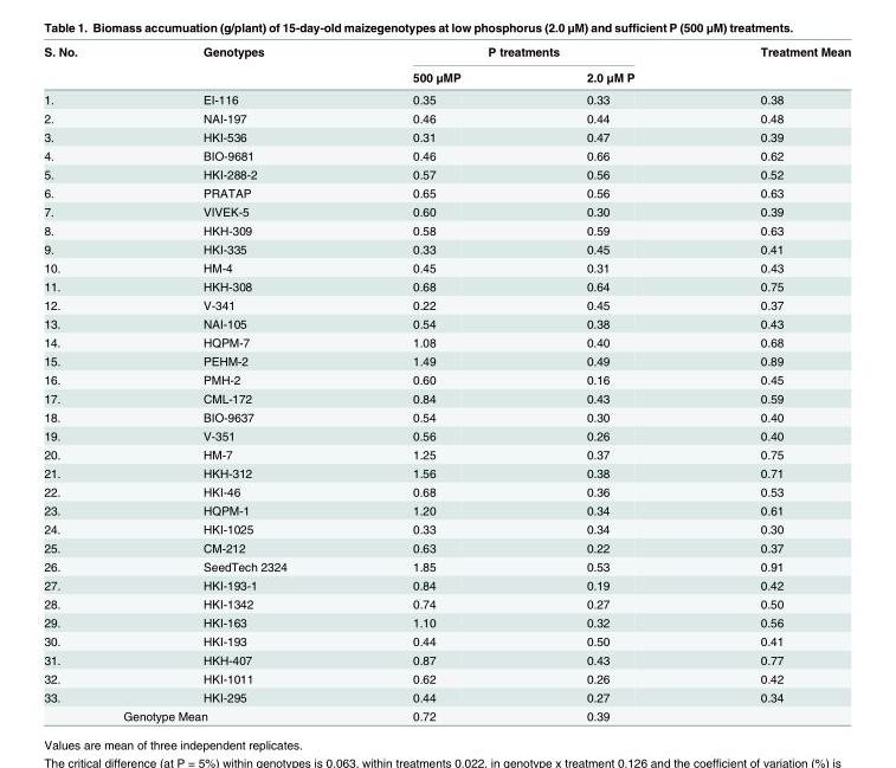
<table><thead><tr><td rowspan="2">S. No.</td><td rowspan="2">Genotypes</td><td colspan="2">P treatments</td><td rowspan="2">Treatment Mean</td></tr><tr><td>500 μMP</td><td>2.0 μM P</td></tr></thead><tbody><tr><td>1.</td><td>EI-116</td><td>0.35</td><td>0.33</td><td>0.38</td></tr><tr><td>2.</td><td>NAI-197</td><td>0.46</td><td>0.44</td><td>0.48</td></tr><tr><td>3.</td><td>HKI-536</td><td>0.31</td><td>0.47</td><td>0.39</td></tr><tr><td>4.</td><td>BIO-9681</td><td>0.46</td><td>0.66</td><td>0.62</td></tr><tr><td>5.</td><td>HKI-288-2</td><td>0.57</td><td>0.56</td><td>0.52</td></tr><tr><td>6.</td><td>PRATAP</td><td>0.65</td><td>0.56</td><td>0.63</td></tr><tr><td>7.</td><td>VIVEK-5</td><td>0.60</td><td>0.30</td><td>0.39</td></tr><tr><td>8.</td><td>HKH-309</td><td>0.58</td><td>0.59</td><td>0.63</td></tr><tr><td>9.</td><td>HKI-335</td><td>0.33</td><td>0.45</td><td>0.41</td></tr><tr><td>10.</td><td>HM-4</td><td>0.45</td><td>0.31</td><td>0.43</td></tr><tr><td>11.</td><td>HKH-308</td><td>0.68</td><td>0.64</td><td>0.75</td></tr><tr><td>12.</td><td>V-341</td><td>0.22</td><td>0.45</td><td>0.37</td></tr><tr><td>13.</td><td>NAI-105</td><td>0.54</td><td>0.38</td><td>0.43</td></tr><tr><td>14.</td><td>HQPM-7</td><td>1.08</td><td>0.40</td><td>0.68</td></tr><tr><td>15.</td><td>PEHM-2</td><td>1.49</td><td>0.49</td><td>0.89</td></tr><tr><td>16.</td><td>PMH-2</td><td>0.60</td><td>0.16</td><td>0.45</td></tr><tr><td>17.</td><td>CML-172</td><td>0.84</td><td>0.43</td><td>0.59</td></tr><tr><td>18.</td><td>BIO-9637</td><td>0.54</td><td>0.30</td><td>0.40</td></tr><tr><td>19.</td><td>V-351</td><td>0.56</td><td>0.26</td><td>0.40</td></tr><tr><td>20.</td><td>HM-7</td><td>1.25</td><td>0.37</td><td>0.75</td></tr><tr><td>21.</td><td>HKH-312</td><td>1.56</td><td>0.38</td><td>0.71</td></tr><tr><td>22.</td><td>HKI-46</td><td>0.68</td><td>0.36</td><td>0.53</td></tr><tr><td>23.</td><td>HQPM-1</td><td>1.20</td><td>0.34</td><td>0.61</td></tr><tr><td>24.</td><td>HKI-1025</td><td>0.33</td><td>0.34</td><td>0.30</td></tr><tr><td>25.</td><td>CM-212</td><td>0.63</td><td>0.22</td><td>0.37</td></tr><tr><td>26.</td><td>SeedTech 2324</td><td>1.85</td><td>0.53</td><td>0.91</td></tr><tr><td>27.</td><td>HKI-193-1</td><td>0.84</td><td>0.19</td><td>0.42</td></tr><tr><td>28.</td><td>HKI-1342</td><td>0.74</td><td>0.27</td><td>0.50</td></tr><tr><td>29.</td><td>HKI-163</td><td>1.10</td><td>0.32</td><td>0.56</td></tr><tr><td>30.</td><td>HKI-193</td><td>0.44</td><td>0.50</td><td>0.41</td></tr><tr><td>31.</td><td>HKH-407</td><td>0.87</td><td>0.43</td><td>0.77</td></tr><tr><td>32.</td><td>HKI-1011</td><td>0.62</td><td>0.26</td><td>0.42</td></tr><tr><td>33.</td><td>HKI-295</td><td>0.44</td><td>0.27</td><td>0.34</td></tr><tr><td colspan="2">Genotype Mean</td><td>0.72</td><td>0.39</td><td></td></tr></tbody></table>